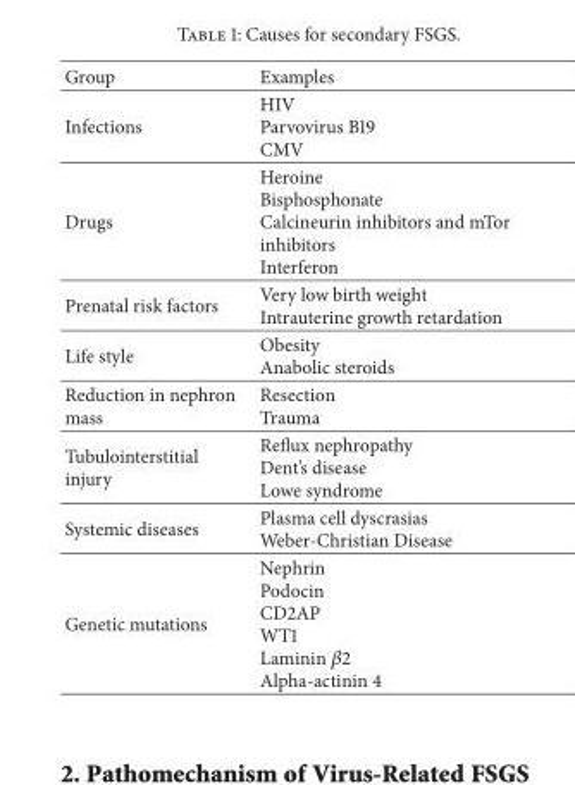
<table><thead><tr><td>Group</td><td>Examples</td></tr></thead><tbody><tr><td>Infections</td><td>HIV Parvovirus B19 CMV</td></tr><tr><td>Drugs</td><td>Heroine Bisphosphonate Calcineurin inhibitors and mTor inhibitors Interferon</td></tr><tr><td>Prenatal risk factors</td><td>Very low birth weight Intrauterine growth retardation</td></tr><tr><td>Life style</td><td>Obesity Anabolic steroids</td></tr><tr><td>Reduction in nephron mass</td><td>Resection Trauma</td></tr><tr><td>Tubulointerstitial injury</td><td>Reflux nephropathy Dent’s disease Lowe syndrome</td></tr><tr><td>Systemic diseases</td><td>Plasma cell dyscrasias Weber-Christian Disease</td></tr><tr><td>Genetic mutations</td><td>Nephrin Podocin CD2AP WT1 Laminin 𝛽2 Alpha-actinin 4</td></tr></tbody></table>